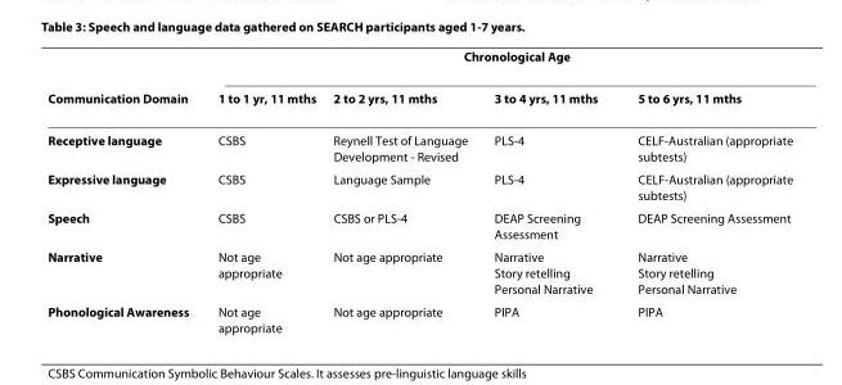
<table><thead><tr><td rowspan="2">Communication Domain</td><td colspan="4">Chronological Age</td></tr><tr><td>1 to 1 yr, 11 mths</td><td>2 to 2 yrs, 11 mths</td><td>3 to 4 yrs, 11 mths</td><td>5 to 6 yrs, 11 mths</td></tr></thead><tbody><tr><td>Receptive language</td><td>CSBS</td><td>Reynell Test of Language Development - Revised</td><td>PLS-4</td><td>CELF-Australian (appropriate subtests)</td></tr><tr><td>Expressive language</td><td>CSBS</td><td>Language Sample</td><td>PLS-4</td><td>CELF-Australian (appropriate subtests)</td></tr><tr><td>Speech</td><td>CSBS</td><td>CSBS or PLS-4</td><td>DEAP Screening Assessment</td><td>DEAP Screening Assessment</td></tr><tr><td>Narrative</td><td>Not age appropriate</td><td>Not age appropriate</td><td>Narrative Story retelling Personal Narrative</td><td>Narrative Story retelling Personal Narrative</td></tr><tr><td>Phonological Awareness</td><td>Not age appropriate</td><td>Not age appropriate</td><td>PIPA</td><td>PIPA</td></tr></tbody></table>